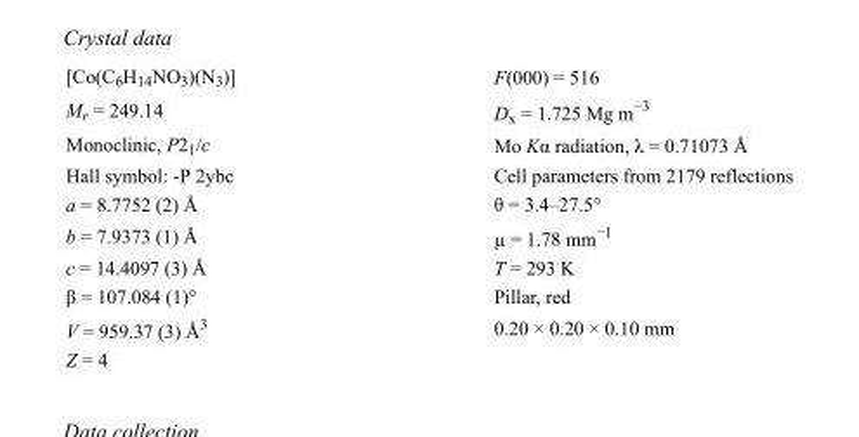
<table><tbody><tr><td>[Co(C<sub>6</sub>H<sub>14</sub>NO<sub>3</sub>)(N<sub>3</sub>)]</td><td>F(000) = 516</td></tr><tr><td>M<sub>r</sub> = 249.14</td><td>D<sub>x</sub> = 1.725 Mg m<sup>−3</sup></td></tr><tr><td>Monoclinic, P2<sub>1</sub>/c</td><td>Mo Kα radiation, λ = 0.71073 Å</td></tr><tr><td>Hall symbol: -P 2ybc</td><td>Cell parameters from 2179 reflections</td></tr><tr><td>a = 8.7752 (2) Å</td><td>θ = 3.4–27.5°</td></tr><tr><td>b = 7.9373 (1) Å</td><td>µ = 1.78 mm<sup>−1</sup></td></tr><tr><td>c = 14.4097 (3) Å</td><td>T = 293 K</td></tr><tr><td>β = 107.084 (1)°</td><td>Pillar, red</td></tr><tr><td>V = 959.37 (3) Å<sup>3</sup></td><td>0.20 × 0.20 × 0.10 mm</td></tr><tr><td>Z = 4</td><td></td></tr></tbody></table>